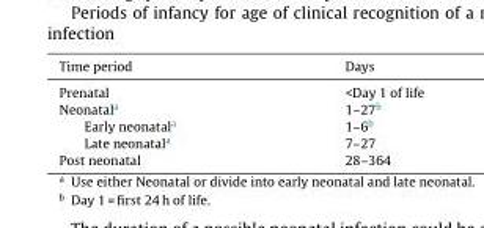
<table><thead><tr><td>Time period</td><td>Days</td></tr></thead><tbody><tr><td>Prenatal</td><td>&lt;Day 1 of life</td></tr><tr><td>Neonatal<sup>a</sup></td><td>1–27<sup>b</sup></td></tr><tr><td>Early neonatal<sup>a</sup></td><td>1–6<sup>b</sup></td></tr><tr><td>Late neonatal<sup>a</sup></td><td>7–27</td></tr><tr><td>Post neonatal</td><td>28–364</td></tr></tbody></table>